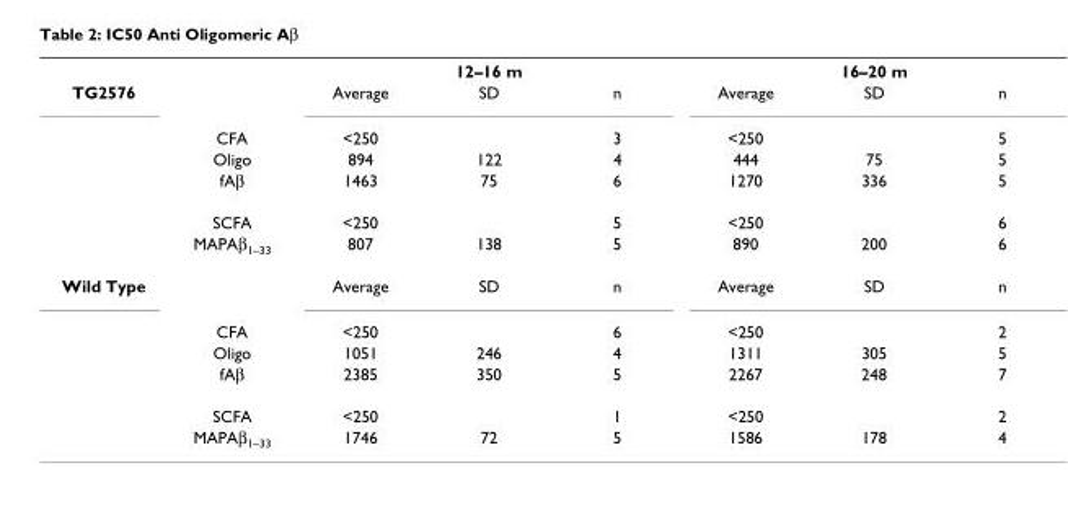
<table><thead><tr><td rowspan="2">TG2576</td><td rowspan="2"></td><td colspan="3">12–16 m</td><td colspan="3">16–20 m</td></tr><tr><td>Average</td><td>SD</td><td>n</td><td>Average</td><td>SD</td><td>n</td></tr></thead><tbody><tr><td></td><td>CFA</td><td>&lt;250</td><td></td><td>3</td><td>&lt;250</td><td></td><td>5</td></tr><tr><td></td><td>Oligo</td><td>894</td><td>122</td><td>4</td><td>444</td><td>75</td><td>5</td></tr><tr><td></td><td>fAβ</td><td>1463</td><td>75</td><td>6</td><td>1270</td><td>336</td><td>5</td></tr><tr><td></td><td>SCFA</td><td>&lt;250</td><td></td><td>5</td><td>&lt;250</td><td></td><td>6</td></tr><tr><td></td><td>MAPAβ<sub>1–33</sub></td><td>807</td><td>138</td><td>5</td><td>890</td><td>200</td><td>6</td></tr><tr><td rowspan="6">Wild Type</td><td></td><td>Average</td><td>SD</td><td>n</td><td>Average</td><td>SD</td><td>n</td></tr><tr><td>CFA</td><td>&lt;250</td><td></td><td>6</td><td>&lt;250</td><td></td><td>2</td></tr><tr><td>Oligo</td><td>1051</td><td>246</td><td>4</td><td>1311</td><td>305</td><td>5</td></tr><tr><td>fAβ</td><td>2385</td><td>350</td><td>5</td><td>2267</td><td>248</td><td>7</td></tr><tr><td>SCFA</td><td>&lt;250</td><td></td><td>1</td><td>&lt;250</td><td></td><td>2</td></tr><tr><td>MAPAβ<sub>1–33</sub></td><td>1746</td><td>72</td><td>5</td><td>1586</td><td>178</td><td>4</td></tr></tbody></table>